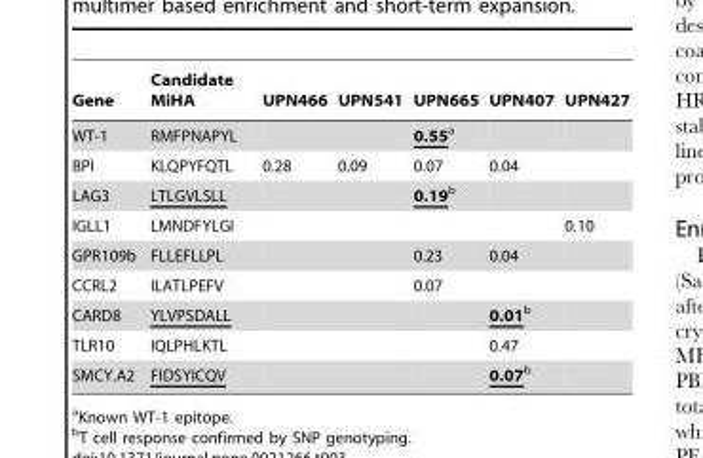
<table><thead><tr><td>Gene</td><td>Candidate MiHA</td><td>UPN466</td><td>UPN541</td><td>UPN665</td><td>UPN407</td><td>UPN427</td></tr></thead><tbody><tr><td>WT-1</td><td>RMFPNAPYL</td><td></td><td></td><td>0.55a</td><td></td><td></td></tr><tr><td>BPI</td><td>KLQPYFQTL</td><td>0.28</td><td>0.09</td><td>0.07</td><td>0.04</td><td></td></tr><tr><td>LAG3</td><td>LTLGVLSLL</td><td></td><td></td><td>0.19b</td><td></td><td></td></tr><tr><td>IGLL1</td><td>LMNDFYLGI</td><td></td><td></td><td></td><td></td><td>0.10</td></tr><tr><td>GPR109b</td><td>FLLEFLLPL</td><td></td><td></td><td>0.23</td><td>0.04</td><td></td></tr><tr><td>CCRL2</td><td>ILATLPEFV</td><td></td><td></td><td>0.07</td><td></td><td></td></tr><tr><td>CARD8</td><td>YLVPSDALL</td><td></td><td></td><td></td><td>0.01b</td><td></td></tr><tr><td>TLR10</td><td>IQLPHLKTL</td><td></td><td></td><td></td><td>0.47</td><td></td></tr><tr><td>SMCY.A2</td><td>FIDSYICQV</td><td></td><td></td><td></td><td>0.07b</td><td></td></tr></tbody></table>